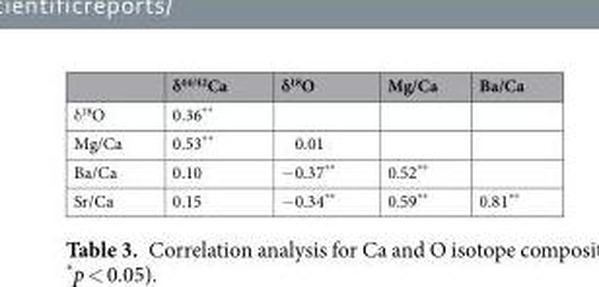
<table><thead><tr><td></td><td>δ<sup>44/42</sup>Ca</td><td>δ<sup>18</sup>O</td><td>Mg/Ca</td><td>Ba/Ca</td></tr></thead><tbody><tr><td>δ<sup>18</sup>O</td><td>0.36**</td><td></td><td></td><td></td></tr><tr><td>Mg/Ca</td><td>0.53**</td><td>0.01</td><td></td><td></td></tr><tr><td>Ba/Ca</td><td>0.10</td><td>−0.37**</td><td>0.52**</td><td></td></tr><tr><td>Sr/Ca</td><td>0.15</td><td>−0.34**</td><td>0.59**</td><td>0.81**</td></tr></tbody></table>